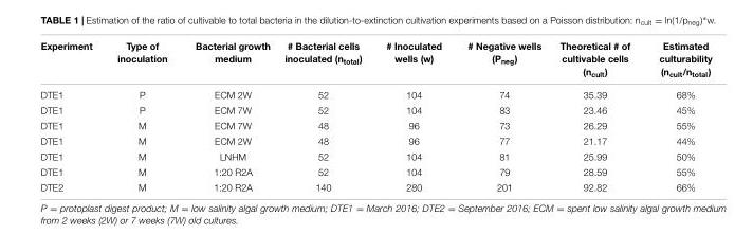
<table><thead><tr><td>Experiment</td><td>Type of inoculation</td><td>Bacterial growth medium</td><td># Bacterial cells inoculated (n<sub>total</sub>)</td><td># Inoculated wells (w)</td><td># Negative wells (P<sub>neg</sub>)</td><td>Theoretical # of cultivable cells (n<sub>cult</sub>)</td><td>Estimated culturability (n<sub>cult</sub>/n<sub>total</sub>)</td></tr></thead><tbody><tr><td>DTE1</td><td>P</td><td>ECM 2W</td><td>52</td><td>104</td><td>74</td><td>35.39</td><td>68%</td></tr><tr><td>DTE1</td><td>P</td><td>ECM 7W</td><td>52</td><td>104</td><td>83</td><td>23.46</td><td>45%</td></tr><tr><td>DTE1</td><td>M</td><td>ECM 7W</td><td>48</td><td>96</td><td>73</td><td>26.29</td><td>55%</td></tr><tr><td>DTE1</td><td>M</td><td>ECM 2W</td><td>48</td><td>96</td><td>77</td><td>21.17</td><td>44%</td></tr><tr><td>DTE1</td><td>M</td><td>LNHM</td><td>52</td><td>104</td><td>81</td><td>25.99</td><td>50%</td></tr><tr><td>DTE1</td><td>M</td><td>1:20 R2A</td><td>52</td><td>104</td><td>79</td><td>28.59</td><td>55%</td></tr><tr><td>DTE2</td><td>M</td><td>1:20 R2A</td><td>140</td><td>280</td><td>201</td><td>92.82</td><td>66%</td></tr></tbody></table>